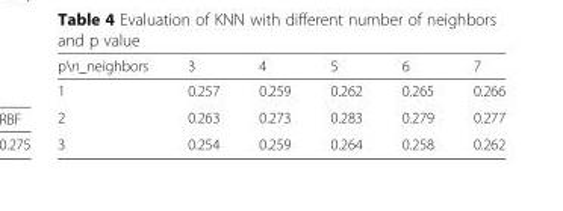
<table><thead><tr><td>p\n_neighbors</td><td>3</td><td>4</td><td>5</td><td>6</td><td>7</td></tr></thead><tbody><tr><td>1</td><td>0.257</td><td>0.259</td><td>0.262</td><td>0.265</td><td>0.266</td></tr><tr><td>2</td><td>0.263</td><td>0.273</td><td>0.283</td><td>0.279</td><td>0.277</td></tr><tr><td>3</td><td>0.254</td><td>0.259</td><td>0.264</td><td>0.258</td><td>0.262</td></tr></tbody></table>